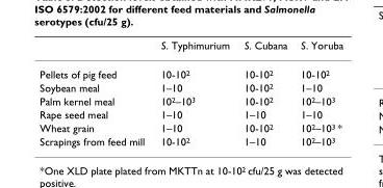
<table><thead><tr><td></td><td>S. Typhimurium</td><td>S. Cubana</td><td>S. Yoruba</td></tr></thead><tbody><tr><td>Pellets of pig feed</td><td>10-10<sup>2</sup></td><td>10-10<sup>2</sup></td><td>10-10<sup>2</sup></td></tr><tr><td>Soybean meal</td><td>1–10</td><td>10-10<sup>2</sup></td><td>1–10</td></tr><tr><td>Palm kernel meal</td><td>10<sup>2</sup>–10<sup>3</sup></td><td>10-10<sup>2</sup></td><td>10<sup>2</sup>–10<sup>3</sup></td></tr><tr><td>Rape seed meal</td><td>1–10</td><td>1–10</td><td>1–10</td></tr><tr><td>Wheat grain</td><td>1–10</td><td>10-10<sup>2</sup></td><td>10<sup>2</sup>–10<sup>3</sup> *</td></tr><tr><td>Scrapings from feed mill</td><td>10-10<sup>2</sup></td><td>1–10</td><td>10<sup>2</sup>–10<sup>3</sup></td></tr></tbody></table>